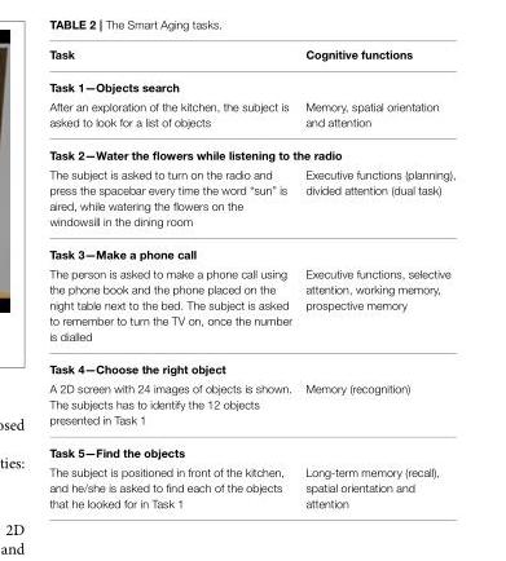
<table><thead><tr><td>Task</td><td>Cognitive functions</td></tr></thead><tbody><tr><td colspan="2">Task 1—Objects search</td></tr><tr><td>After an exploration of the kitchen, the subject is asked to look for a list of objects</td><td>Memory, spatial orientation and attention</td></tr><tr><td colspan="2">Task 2—Water the flowers while listening to the radio</td></tr><tr><td>The subject is asked to turn on the radio and press the spacebar every time the word “sun” is aired, while watering the flowers on the windowsill in the dining room</td><td>Executive functions (planning), divided attention (dual task)</td></tr><tr><td colspan="2">Task 3—Make a phone call</td></tr><tr><td>The person is asked to make a phone call using the phone book and the phone placed on the night table next to the bed. The subject is asked to remember to turn the TV on, once the number is dialled</td><td>Executive functions, selective attention, working memory, prospective memory</td></tr><tr><td colspan="2">Task 4—Choose the right object</td></tr><tr><td>A 2D screen with 24 images of objects is shown. The subjects has to identify the 12 objects presented in Task 1</td><td>Memory (recognition)</td></tr><tr><td colspan="2">Task 5—Find the objects</td></tr><tr><td>The subject is positioned in front of the kitchen, and he/she is asked to find each of the objects that he looked for in Task 1</td><td>Long-term memory (recall), spatial orientation and attention</td></tr></tbody></table>